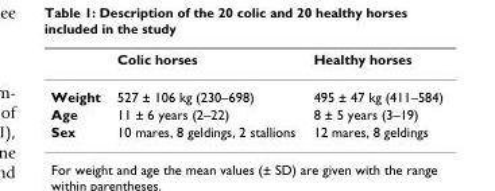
<table><thead><tr><td></td><td>Colic horses</td><td>Healthy horses</td></tr></thead><tbody><tr><td>Weight</td><td>527 ± 106 kg (230–698)</td><td>495 ± 47 kg (411–584)</td></tr><tr><td>Age</td><td>11 ± 6 years (2–22)</td><td>8 ± 5 years (3–19)</td></tr><tr><td>Sex</td><td>10 mares, 8 geldings, 2 stallions</td><td>12 mares, 8 geldings</td></tr></tbody></table>